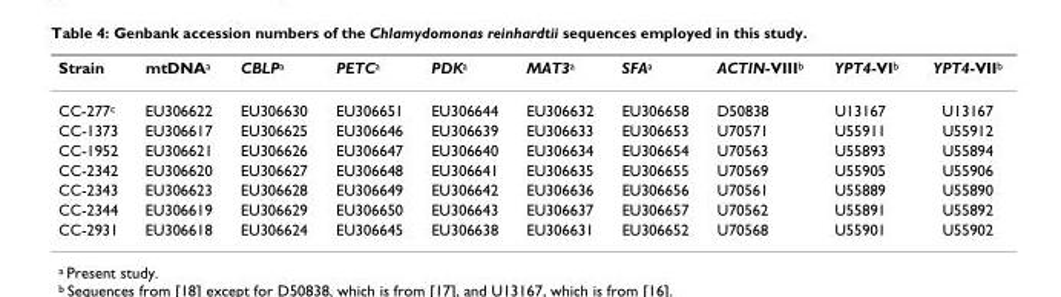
<table><thead><tr><td>Strain</td><td>mtDNA<sup>a</sup></td><td>CBLP<sup>a</sup></td><td>PETC<sup>a</sup></td><td>PDK<sup>a</sup></td><td>MAT3<sup>a</sup></td><td>SFA<sup>a</sup></td><td>ACTIN-VIII<sup>b</sup></td><td>YPT4-VI<sup>b</sup></td><td>YPT4-VII<sup>b</sup></td></tr></thead><tbody><tr><td>CC-277<sup>c</sup></td><td>EU306622</td><td>EU306630</td><td>EU306651</td><td>EU306644</td><td>EU306632</td><td>EU306658</td><td>D50838</td><td>U13167</td><td>U13167</td></tr><tr><td>CC-1373</td><td>EU306617</td><td>EU306625</td><td>EU306646</td><td>EU306639</td><td>EU306633</td><td>EU306653</td><td>U70571</td><td>U55911</td><td>U55912</td></tr><tr><td>CC-1952</td><td>EU306621</td><td>EU306626</td><td>EU306647</td><td>EU306640</td><td>EU306634</td><td>EU306654</td><td>U70563</td><td>U55893</td><td>U55894</td></tr><tr><td>CC-2342</td><td>EU306620</td><td>EU306627</td><td>EU306648</td><td>EU306641</td><td>EU306635</td><td>EU306655</td><td>U70569</td><td>U55905</td><td>U55906</td></tr><tr><td>CC-2343</td><td>EU306623</td><td>EU306628</td><td>EU306649</td><td>EU306642</td><td>EU306636</td><td>EU306656</td><td>U70561</td><td>U55889</td><td>U55890</td></tr><tr><td>CC-2344</td><td>EU306619</td><td>EU306629</td><td>EU306650</td><td>EU306643</td><td>EU306637</td><td>EU306657</td><td>U70562</td><td>U55891</td><td>U55892</td></tr><tr><td>CC-2931</td><td>EU306618</td><td>EU306624</td><td>EU306645</td><td>EU306638</td><td>EU306631</td><td>EU306652</td><td>U70568</td><td>U55901</td><td>U55902</td></tr></tbody></table>